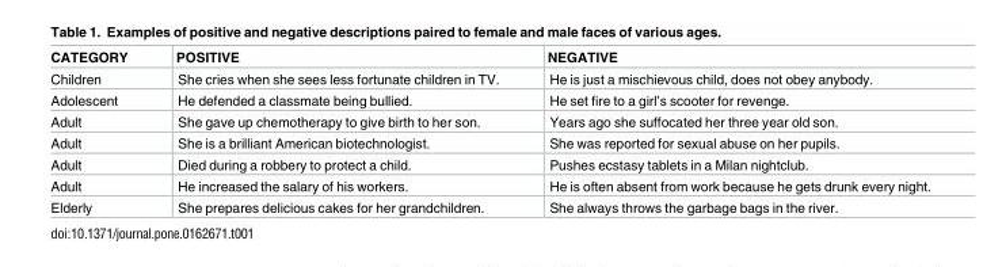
<table><thead><tr><td>CATEGORY</td><td>POSITIVE</td><td>NEGATIVE</td></tr></thead><tbody><tr><td>Children</td><td>She cries when she sees less fortunate children in TV.</td><td>He is just a mischievous child, does not obey anybody.</td></tr><tr><td>Adolescent</td><td>He defended a classmate being bullied.</td><td>He set fire to a girl’s scooter for revenge.</td></tr><tr><td>Adult</td><td>She gave up chemotherapy to give birth to her son.</td><td>Years ago she suffocated her three year old son.</td></tr><tr><td>Adult</td><td>She is a brilliant American biotechnologist.</td><td>She was reported for sexual abuse on her pupils.</td></tr><tr><td>Adult</td><td>Died during a robbery to protect a child.</td><td>Pushes ecstasy tablets in a Milan nightclub.</td></tr><tr><td>Adult</td><td>He increased the salary of his workers.</td><td>He is often absent from work because he gets drunk every night.</td></tr><tr><td>Elderly</td><td>She prepares delicious cakes for her grandchildren.</td><td>She always throws the garbage bags in the river.</td></tr></tbody></table>